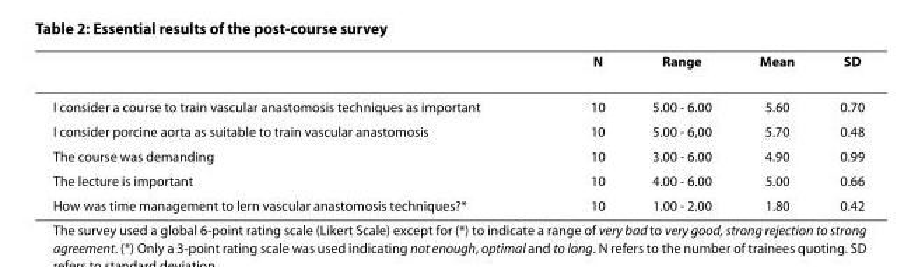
<table><thead><tr><td></td><td>N</td><td>Range</td><td>Mean</td><td>SD</td></tr></thead><tbody><tr><td>I consider a course to train vascular anastomosis techniques as important</td><td>10</td><td>5.00 - 6.00</td><td>5.60</td><td>0.70</td></tr><tr><td>I consider porcine aorta as suitable to train vascular anastomosis</td><td>10</td><td>5.00 - 6,00</td><td>5.70</td><td>0.48</td></tr><tr><td>The course was demanding</td><td>10</td><td>3.00 - 6.00</td><td>4.90</td><td>0.99</td></tr><tr><td>The lecture is important</td><td>10</td><td>4.00 - 6.00</td><td>5.00</td><td>0.66</td></tr><tr><td>How was time management to lern vascular anastomosis techniques?*</td><td>10</td><td>1.00 - 2.00</td><td>1.80</td><td>0.42</td></tr></tbody></table>